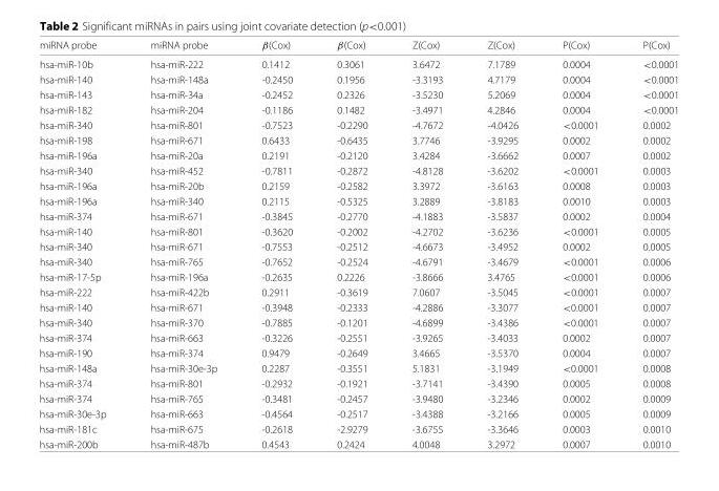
<table><thead><tr><td>miRNA probe</td><td>miRNA probe</td><td>β(Cox)</td><td>β(Cox)</td><td>Z(Cox)</td><td>Z(Cox)</td><td>P(Cox)</td><td>P(Cox)</td></tr></thead><tbody><tr><td>hsa-miR-10b</td><td>hsa-miR-222</td><td>0.1412</td><td>0.3061</td><td>3.6472</td><td>7.1789</td><td>0.0004</td><td>&lt;0.0001</td></tr><tr><td>hsa-miR-140</td><td>hsa-miR-148a</td><td>-0.2450</td><td>0.1956</td><td>-3.3193</td><td>4.7179</td><td>0.0004</td><td>&lt;0.0001</td></tr><tr><td>hsa-miR-143</td><td>hsa-miR-34a</td><td>-0.2452</td><td>0.2326</td><td>-3.5230</td><td>5.2069</td><td>0.0004</td><td>&lt;0.0001</td></tr><tr><td>hsa-miR-182</td><td>hsa-miR-204</td><td>-0.1186</td><td>0.1482</td><td>-3.4971</td><td>4.2846</td><td>0.0004</td><td>&lt;0.0001</td></tr><tr><td>hsa-miR-340</td><td>hsa-miR-801</td><td>-0.7523</td><td>-0.2290</td><td>-4.7672</td><td>-4.0426</td><td>&lt;0.0001</td><td>0.0002</td></tr><tr><td>hsa-miR-198</td><td>hsa-miR-671</td><td>0.6433</td><td>-0.6435</td><td>3.7746</td><td>-3.9295</td><td>0.0002</td><td>0.0002</td></tr><tr><td>hsa-miR-196a</td><td>hsa-miR-20a</td><td>0.2191</td><td>-0.2120</td><td>3.4284</td><td>-3.6662</td><td>0.0007</td><td>0.0002</td></tr><tr><td>hsa-miR-340</td><td>hsa-miR-452</td><td>-0.7811</td><td>-0.2872</td><td>-4.8128</td><td>-3.6202</td><td>&lt;0.0001</td><td>0.0003</td></tr><tr><td>hsa-miR-196a</td><td>hsa-miR-20b</td><td>0.2159</td><td>-0.2582</td><td>3.3972</td><td>-3.6163</td><td>0.0008</td><td>0.0003</td></tr><tr><td>hsa-miR-196a</td><td>hsa-miR-340</td><td>0.2115</td><td>-0.5325</td><td>3.2889</td><td>-3.8183</td><td>0.0010</td><td>0.0003</td></tr><tr><td>hsa-miR-374</td><td>hsa-miR-671</td><td>-0.3845</td><td>-0.2770</td><td>-4.1883</td><td>-3.5837</td><td>0.0002</td><td>0.0004</td></tr><tr><td>hsa-miR-140</td><td>hsa-miR-801</td><td>-0.3620</td><td>-0.2002</td><td>-4.2702</td><td>-3.6236</td><td>&lt;0.0001</td><td>0.0005</td></tr><tr><td>hsa-miR-340</td><td>hsa-miR-671</td><td>-0.7553</td><td>-0.2512</td><td>-4.6673</td><td>-3.4952</td><td>0.0002</td><td>0.0005</td></tr><tr><td>hsa-miR-340</td><td>hsa-miR-765</td><td>-0.7652</td><td>-0.2524</td><td>-4.6791</td><td>-3.4679</td><td>&lt;0.0001</td><td>0.0006</td></tr><tr><td>hsa-miR-17-5p</td><td>hsa-miR-196a</td><td>-0.2635</td><td>0.2226</td><td>-3.8666</td><td>3.4765</td><td>&lt;0.0001</td><td>0.0006</td></tr><tr><td>hsa-miR-222</td><td>hsa-miR-422b</td><td>0.2911</td><td>-0.3619</td><td>7.0607</td><td>-3.5045</td><td>&lt;0.0001</td><td>0.0007</td></tr><tr><td>hsa-miR-140</td><td>hsa-miR-671</td><td>-0.3948</td><td>-0.2333</td><td>-4.2886</td><td>-3.3077</td><td>&lt;0.0001</td><td>0.0007</td></tr><tr><td>hsa-miR-340</td><td>hsa-miR-370</td><td>-0.7885</td><td>-0.1201</td><td>-4.6899</td><td>-3.4386</td><td>&lt;0.0001</td><td>0.0007</td></tr><tr><td>hsa-miR-374</td><td>hsa-miR-663</td><td>-0.3226</td><td>-0.2551</td><td>-3.9265</td><td>-3.4033</td><td>0.0002</td><td>0.0007</td></tr><tr><td>hsa-miR-190</td><td>hsa-miR-374</td><td>0.9479</td><td>-0.2649</td><td>3.4665</td><td>-3.5370</td><td>0.0004</td><td>0.0007</td></tr><tr><td>hsa-miR-148a</td><td>hsa-miR-30e-3p</td><td>0.2287</td><td>-0.3551</td><td>5.1831</td><td>-3.1949</td><td>&lt;0.0001</td><td>0.0008</td></tr><tr><td>hsa-miR-374</td><td>hsa-miR-801</td><td>-0.2932</td><td>-0.1921</td><td>-3.7141</td><td>-3.4390</td><td>0.0005</td><td>0.0008</td></tr><tr><td>hsa-miR-374</td><td>hsa-miR-765</td><td>-0.3481</td><td>-0.2457</td><td>-3.9480</td><td>-3.2346</td><td>0.0002</td><td>0.0009</td></tr><tr><td>hsa-miR-30e-3p</td><td>hsa-miR-663</td><td>-0.4564</td><td>-0.2517</td><td>-3.4388</td><td>-3.2166</td><td>0.0005</td><td>0.0009</td></tr><tr><td>hsa-miR-181c</td><td>hsa-miR-675</td><td>-0.2618</td><td>-2.9279</td><td>-3.6755</td><td>-3.3646</td><td>0.0003</td><td>0.0010</td></tr><tr><td>hsa-miR-200b</td><td>hsa-miR-487b</td><td>0.4543</td><td>0.2424</td><td>4.0048</td><td>3.2972</td><td>0.0007</td><td>0.0010</td></tr></tbody></table>